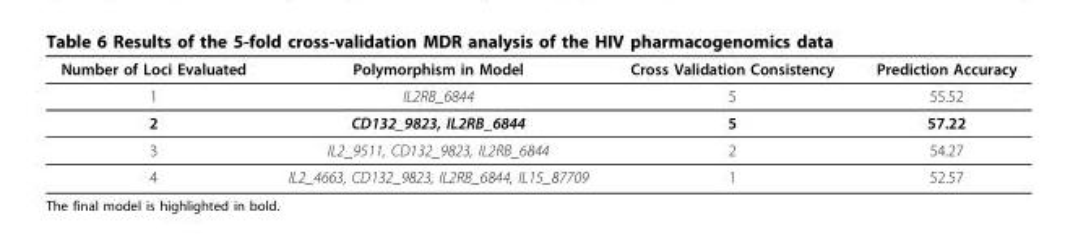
<table><thead><tr><td>Number of Loci Evaluated</td><td>Polymorphism in Model</td><td>Cross Validation Consistency</td><td>Prediction Accuracy</td></tr></thead><tbody><tr><td>1</td><td>IL2RB_6844</td><td>5</td><td>55.52</td></tr><tr><td>2</td><td>CD132_9823, IL2RB_6844</td><td>5</td><td>57.22</td></tr><tr><td>3</td><td>IL2_9511, CD132_9823, IL2RB_6844</td><td>2</td><td>54.27</td></tr><tr><td>4</td><td>IL2_4663, CD132_9823, IL2RB_6844, IL15_87709</td><td>1</td><td>52.57</td></tr></tbody></table>